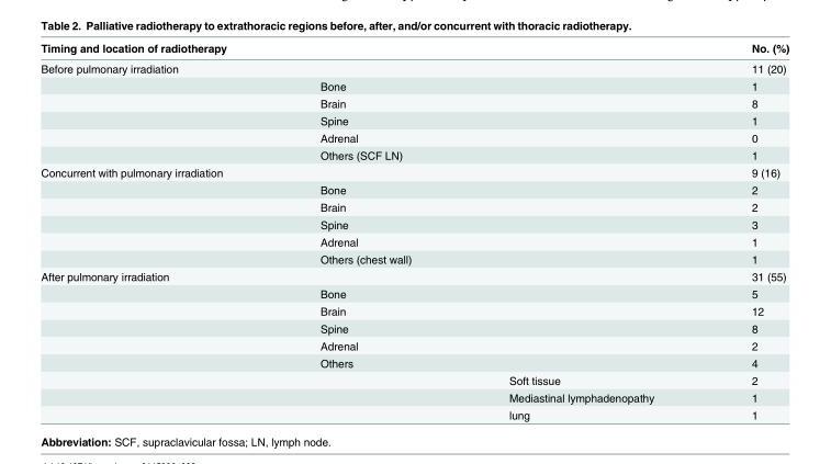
<table><thead><tr><td colspan="3">Timing and location of radiotherapy</td><td rowspan="2">No. (%) 11 (20)</td></tr><tr><td>Before pulmonary irradiation</td><td></td><td></td></tr></thead><tbody><tr><td></td><td>Bone</td><td></td><td>1</td></tr><tr><td></td><td>Brain</td><td></td><td>8</td></tr><tr><td></td><td>Spine</td><td></td><td>1</td></tr><tr><td></td><td>Adrenal</td><td></td><td>0</td></tr><tr><td></td><td>Others (SCF LN)</td><td></td><td>1</td></tr><tr><td rowspan="6">Concurrent with pulmonary irradiation</td><td></td><td></td><td>9 (16)</td></tr><tr><td>Bone</td><td></td><td>2</td></tr><tr><td>Brain</td><td></td><td>2</td></tr><tr><td>Spine</td><td></td><td>3</td></tr><tr><td>Adrenal</td><td></td><td>1</td></tr><tr><td>Others (chest wall)</td><td></td><td>1</td></tr><tr><td rowspan="9">After pulmonary irradiation</td><td></td><td></td><td>31 (55)</td></tr><tr><td>Bone</td><td></td><td>5</td></tr><tr><td>Brain</td><td></td><td>12</td></tr><tr><td>Spine</td><td></td><td>8</td></tr><tr><td>Adrenal</td><td></td><td>2</td></tr><tr><td>Others</td><td></td><td>4</td></tr><tr><td></td><td>Soft tissue</td><td>2</td></tr><tr><td></td><td>Mediastinal lymphadenopathy</td><td>1</td></tr><tr><td></td><td>lung</td><td>1</td></tr></tbody></table>